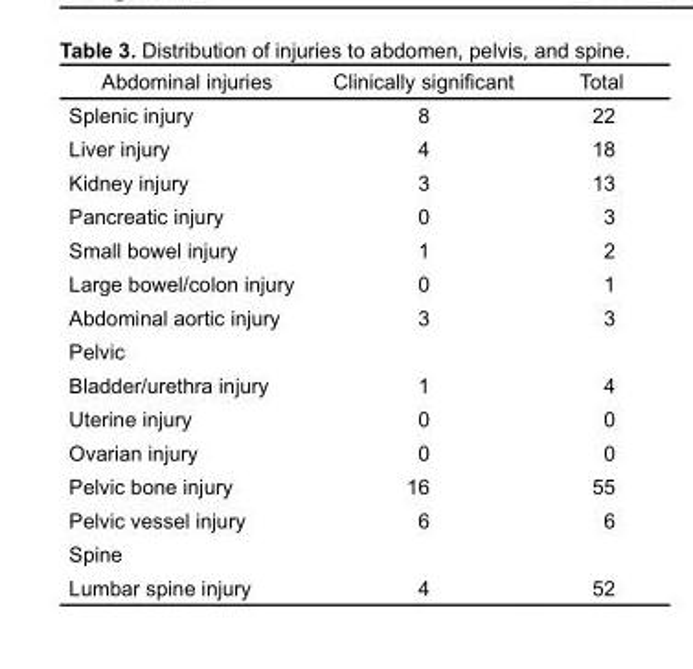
<table><thead><tr><td>Abdominal injuries</td><td>Clinically significant</td><td>Total</td></tr></thead><tbody><tr><td>Splenic injury</td><td>8</td><td>22</td></tr><tr><td>Liver injury</td><td>4</td><td>18</td></tr><tr><td>Kidney injury</td><td>3</td><td>13</td></tr><tr><td>Pancreatic injury</td><td>0</td><td>3</td></tr><tr><td>Small bowel injury</td><td>1</td><td>2</td></tr><tr><td>Large bowel/colon injury</td><td>0</td><td>1</td></tr><tr><td>Abdominal aortic injury</td><td>3</td><td>3</td></tr><tr><td colspan="3">Pelvic</td></tr><tr><td>Bladder/urethra injury</td><td>1</td><td>4</td></tr><tr><td>Uterine injury</td><td>0</td><td>0</td></tr><tr><td>Ovarian injury</td><td>0</td><td>0</td></tr><tr><td>Pelvic bone injury</td><td>16</td><td>55</td></tr><tr><td>Pelvic vessel injury</td><td>6</td><td>6</td></tr><tr><td colspan="3">Spine</td></tr><tr><td>Lumbar spine injury</td><td>4</td><td>52</td></tr></tbody></table>